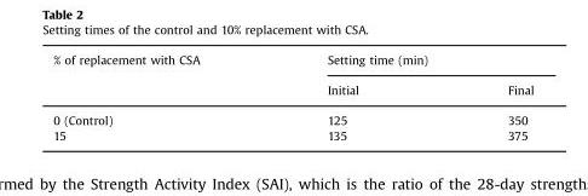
<table><thead><tr><td rowspan="2">% of replacement with CSA</td><td colspan="2">Setting time (min)</td></tr><tr><td>Initial</td><td>Final</td></tr></thead><tbody><tr><td>0 (Control)</td><td>125</td><td>350</td></tr><tr><td>15</td><td>135</td><td>375</td></tr></tbody></table>